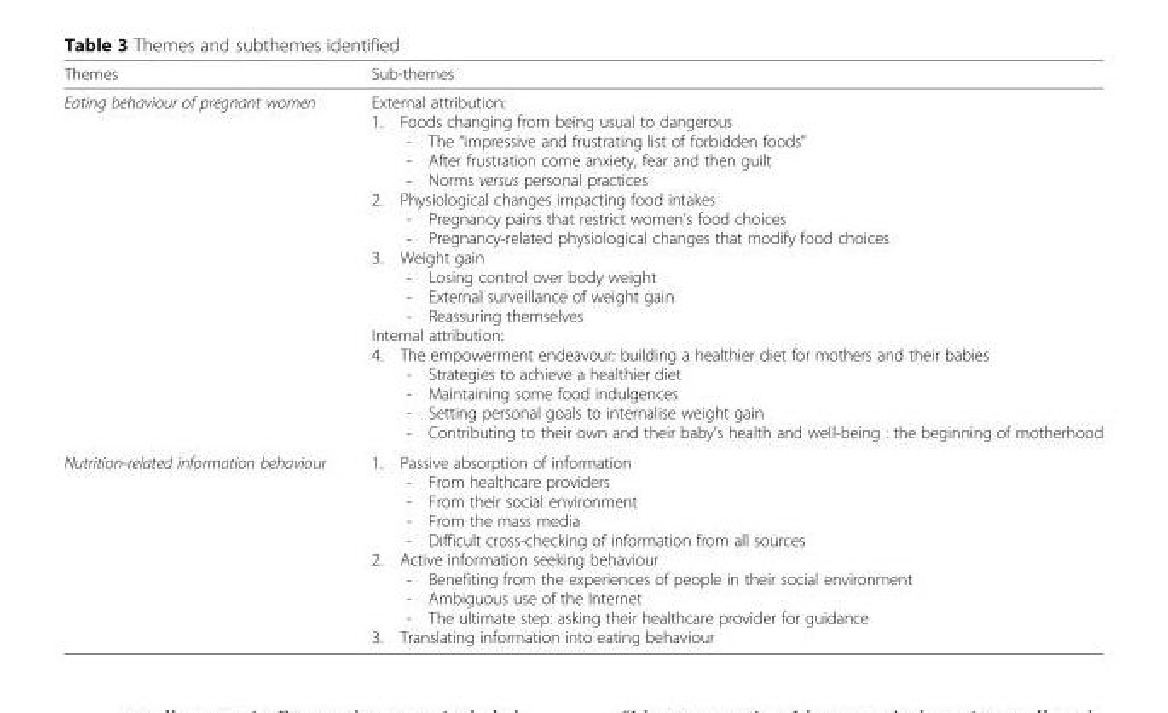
<table><thead><tr><td>Themes</td><td>Sub-themes</td></tr></thead><tbody><tr><td>Eating behaviour of pregnant women</td><td>External attribution: 1. Foods changing from being usual to dangerous - The “impressive and frustrating list of forbidden foods” - After frustration come anxiety, fear and then guilt - Norms versus personal practices 2. Physiological changes impacting food intakes - Pregnancy pains that restrict women’s food choices - Pregnancy-related physiological changes that modify food choices 3. Weight gain - Losing control over body weight - External surveillance of weight gain - Reassuring themselves Internal attribution: 4. The empowerment endeavour: building a healthier diet for mothers and their babies - Strategies to achieve a healthier diet - Maintaining some food indulgences - Setting personal goals to internalise weight gain - Contributing to their own and their baby’s health and well-being : the beginning of motherhood</td></tr><tr><td>Nutrition-related information behaviour</td><td>1. Passive absorption of information - From healthcare providers - From their social environment - From the mass media - Difficult cross-checking of information from all sources 2. Active information seeking behaviour - Benefiting from the experiences of people in their social environment - Ambiguous use of the Internet - The ultimate step: asking their healthcare provider for guidance 3. Translating information into eating behaviour</td></tr></tbody></table>